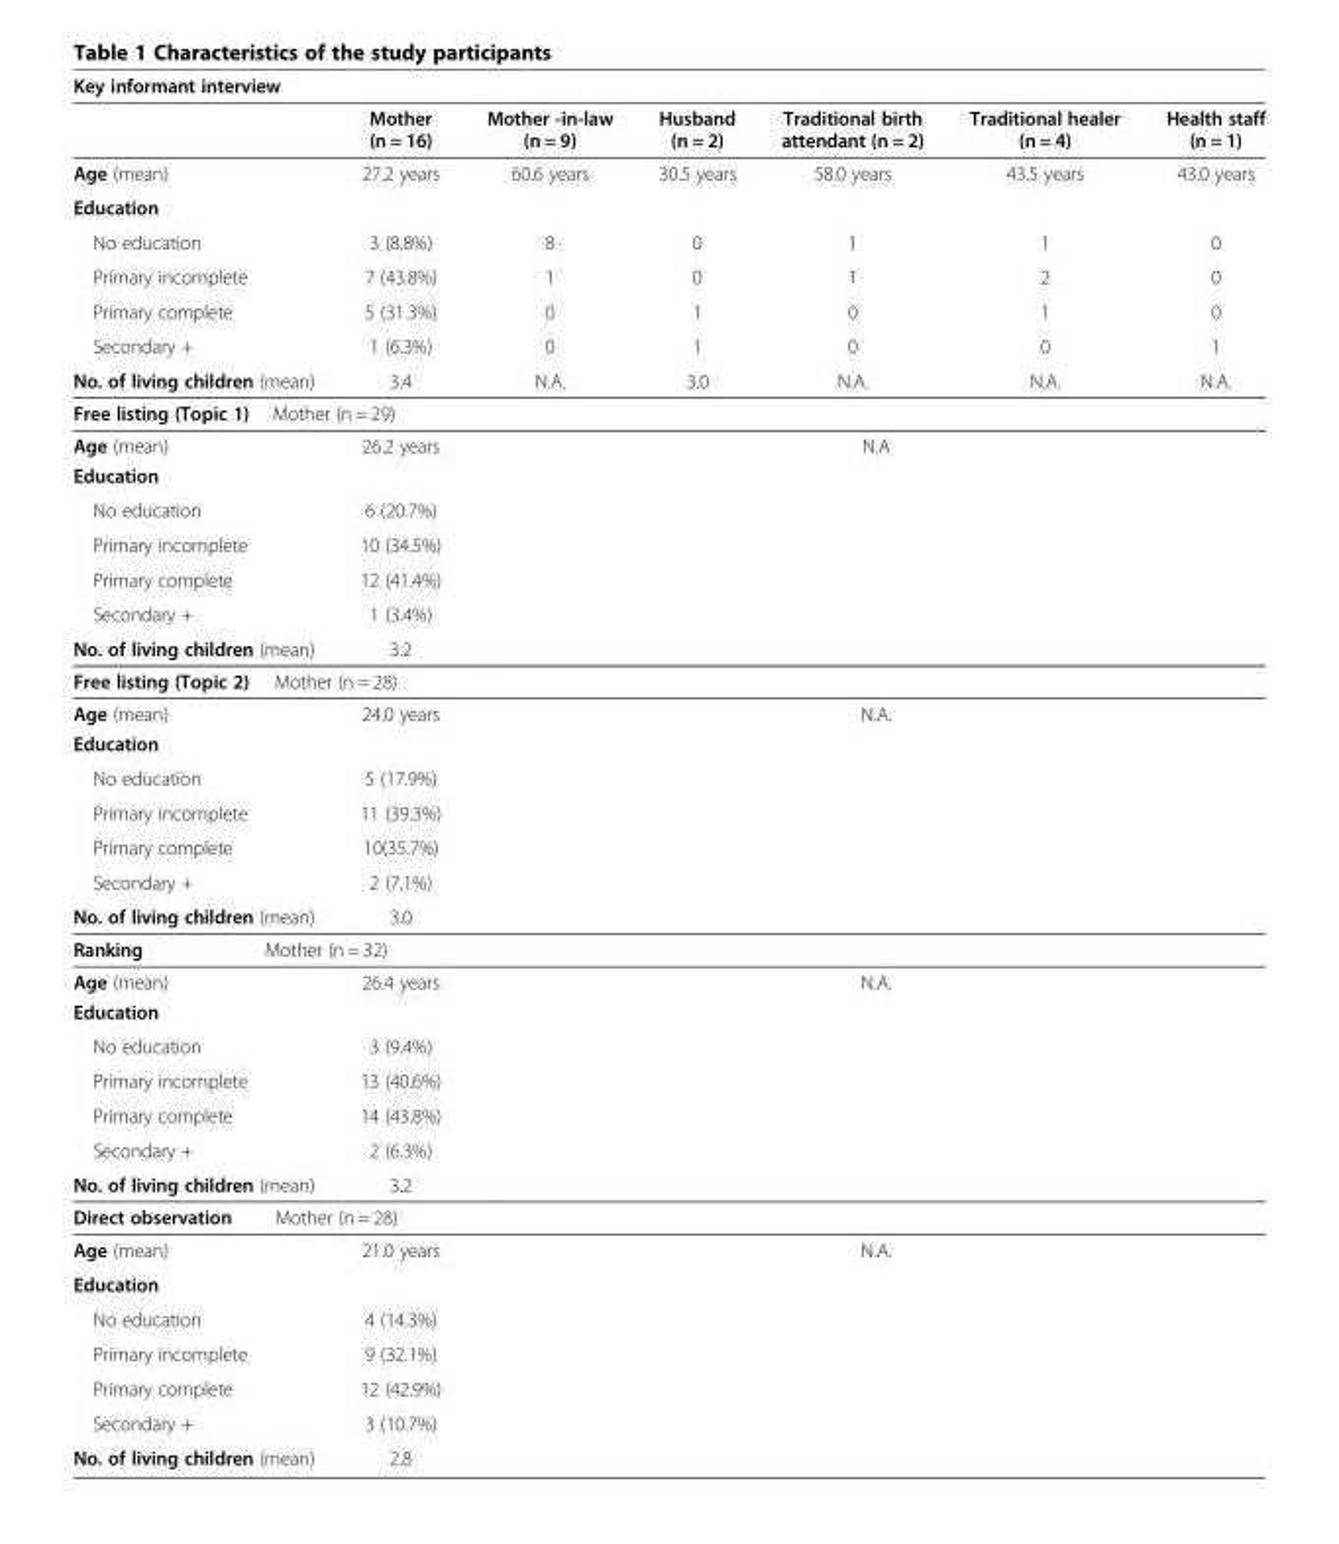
<table><thead><tr><td colspan="7">Key informant interview</td></tr><tr><td></td><td>Mother (n = 16)</td><td>Mother -in-law (n = 9)</td><td>Husband (n = 2)</td><td>Traditional birth attendant (n = 2)</td><td>Traditional healer (n = 4)</td><td>Health staff (n = 1)</td></tr></thead><tbody><tr><td>Age (mean)</td><td>27.2 years</td><td>60.6 years</td><td>30.5 years</td><td>58.0 years</td><td>43.5 years</td><td>43.0 years</td></tr><tr><td colspan="7">Education</td></tr><tr><td>No education</td><td>3 (8.8%)</td><td>8</td><td>0</td><td>1</td><td>1</td><td>0</td></tr><tr><td>Primary incomplete</td><td>7 (43.8%)</td><td>1</td><td>0</td><td>1</td><td>2</td><td>0</td></tr><tr><td>Primary complete</td><td>5 (31.3%)</td><td>0</td><td>1</td><td>0</td><td>1</td><td>0</td></tr><tr><td>Secondary +</td><td>1 (6.3%)</td><td>0</td><td>1</td><td>0</td><td>0</td><td>1</td></tr><tr><td>No. of living children (mean)</td><td>3.4</td><td>N.A.</td><td>3.0</td><td>N.A.</td><td>N.A.</td><td>N.A.</td></tr><tr><td colspan="7">Free listing (Topic 1) Mother (n = 29)</td></tr><tr><td>Age (mean)</td><td>26.2 years</td><td colspan="5">N.A</td></tr><tr><td colspan="7">Education</td></tr><tr><td>No education</td><td>6 (20.7%)</td><td colspan="5"></td></tr><tr><td>Primary incomplete</td><td>10 (34.5%)</td><td colspan="5"></td></tr><tr><td>Primary complete</td><td>12 (41.4%)</td><td colspan="5"></td></tr><tr><td>Secondary +</td><td>1 (3.4%)</td><td colspan="5"></td></tr><tr><td>No. of living children (mean)</td><td>3.2</td><td colspan="5"></td></tr><tr><td colspan="7">Free listing (Topic 2) Mother (n = 28)</td></tr><tr><td>Age (mean)</td><td>24.0 years</td><td colspan="5">N.A.</td></tr><tr><td colspan="7">Education</td></tr><tr><td>No education</td><td>5 (17.9%)</td><td colspan="5"></td></tr><tr><td>Primary incomplete</td><td>11 (39.3%)</td><td colspan="5"></td></tr><tr><td>Primary complete</td><td>10(35.7%)</td><td colspan="5"></td></tr><tr><td>Secondary +</td><td>2 (7.1%)</td><td colspan="5"></td></tr><tr><td>No. of living children (mean)</td><td>3.0</td><td colspan="5"></td></tr><tr><td colspan="7">Ranking Mother (n = 32)</td></tr><tr><td>Age (mean)</td><td>26.4 years</td><td colspan="5">N.A.</td></tr><tr><td colspan="7">Education</td></tr><tr><td>No education</td><td>3 (9.4%)</td><td colspan="5"></td></tr><tr><td>Primary incomplete</td><td>13 (40.6%)</td><td colspan="5"></td></tr><tr><td>Primary complete</td><td>14 (43.8%)</td><td colspan="5"></td></tr><tr><td>Secondary +</td><td>2 (6.3%)</td><td colspan="5"></td></tr><tr><td>No. of living children (mean)</td><td>3.2</td><td colspan="5"></td></tr><tr><td colspan="7">Direct observation Mother (n = 28)</td></tr><tr><td>Age (mean)</td><td>21.0 years</td><td colspan="5">N.A.</td></tr><tr><td colspan="7">Education</td></tr><tr><td>No education</td><td>4 (14.3%)</td><td colspan="5"></td></tr><tr><td>Primary incomplete</td><td>9 (32.1%)</td><td colspan="5"></td></tr><tr><td>Primary complete</td><td>12 (42.9%)</td><td colspan="5"></td></tr><tr><td>Secondary +</td><td>3 (10.7%)</td><td colspan="5"></td></tr><tr><td>No. of living children (mean)</td><td>2.8</td><td colspan="5"></td></tr></tbody></table>